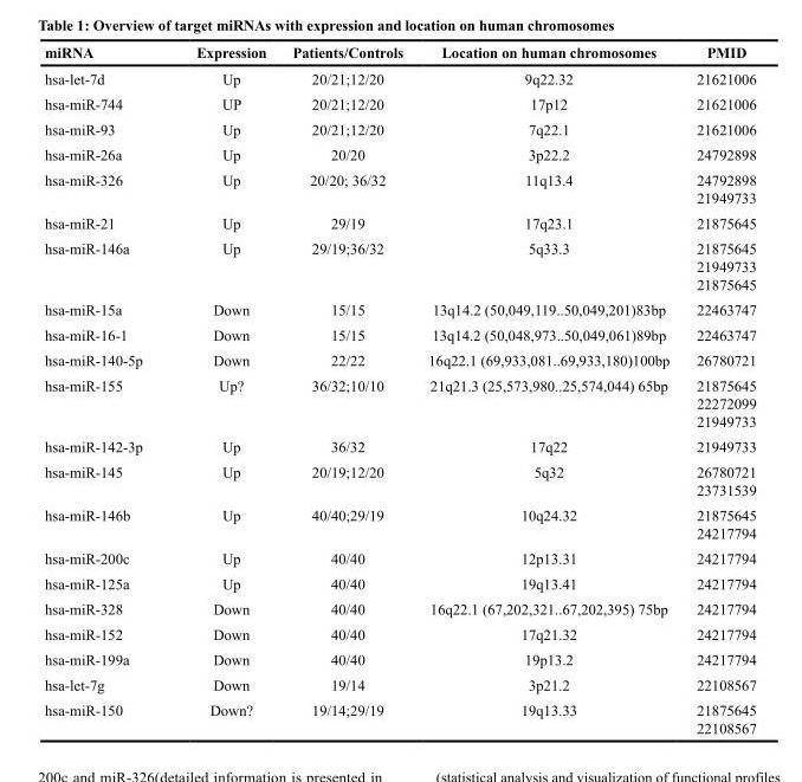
<table><thead><tr><td>miRNA</td><td>Expression</td><td>Patients/Controls</td><td>Location on human chromosomes</td><td>PMID</td></tr></thead><tbody><tr><td>hsa-let-7d</td><td>Up</td><td>20/21;12/20</td><td>9q22.32</td><td>21621006</td></tr><tr><td>hsa-miR-744</td><td>UP</td><td>20/21;12/20</td><td>17p12</td><td>21621006</td></tr><tr><td>hsa-miR-93</td><td>Up</td><td>20/21;12/20</td><td>7q22.1</td><td>21621006</td></tr><tr><td>hsa-miR-26a</td><td>Up</td><td>20/20</td><td>3p22.2</td><td>24792898</td></tr><tr><td>hsa-miR-326</td><td>Up</td><td>20/20; 36/32</td><td>11q13.4</td><td>24792898 21949733</td></tr><tr><td>hsa-miR-21</td><td>Up</td><td>29/19</td><td>17q23.1</td><td>21875645</td></tr><tr><td>hsa-miR-146a</td><td>Up</td><td>29/19;36/32</td><td>5q33.3</td><td>21875645 21949733 21875645</td></tr><tr><td>hsa-miR-15a</td><td>Down</td><td>15/15</td><td>13q14.2 (50,049,119..50,049,201)83bp</td><td>22463747</td></tr><tr><td>hsa-miR-16-1</td><td>Down</td><td>15/15</td><td>13q14.2 (50,048,973..50,049,061)89bp</td><td>22463747</td></tr><tr><td>hsa-miR-140-5p</td><td>Down</td><td>22/22</td><td>16q22.1 (69,933,081..69,933,180)100bp</td><td>26780721</td></tr><tr><td>hsa-miR-155</td><td>Up?</td><td>36/32;10/10</td><td>21q21.3 (25,573,980..25,574,044) 65bp</td><td>21875645 22272099 21949733</td></tr><tr><td>hsa-miR-142-3p</td><td>Up</td><td>36/32</td><td>17q22</td><td>21949733</td></tr><tr><td>hsa-miR-145</td><td>Up</td><td>20/19;12/20</td><td>5q32</td><td>26780721 23731539</td></tr><tr><td>hsa-miR-146b</td><td>Up</td><td>40/40;29/19</td><td>10q24.32</td><td>21875645 24217794</td></tr><tr><td>hsa-miR-200c</td><td>Up</td><td>40/40</td><td>12p13.31</td><td>24217794</td></tr><tr><td>hsa-miR-125a</td><td>Up</td><td>40/40</td><td>19q13.41</td><td>24217794</td></tr><tr><td>hsa-miR-328</td><td>Down</td><td>40/40</td><td>16q22.1 (67,202,321..67,202,395) 75bp</td><td>24217794</td></tr><tr><td>hsa-miR-152</td><td>Down</td><td>40/40</td><td>17q21.32</td><td>24217794</td></tr><tr><td>hsa-miR-199a</td><td>Down</td><td>40/40</td><td>19p13.2</td><td>24217794</td></tr><tr><td>hsa-let-7g</td><td>Down</td><td>19/14</td><td>3p21.2</td><td>22108567</td></tr><tr><td>hsa-miR-150</td><td>Down?</td><td>19/14;29/19</td><td>19q13.33</td><td>21875645 22108567</td></tr></tbody></table>